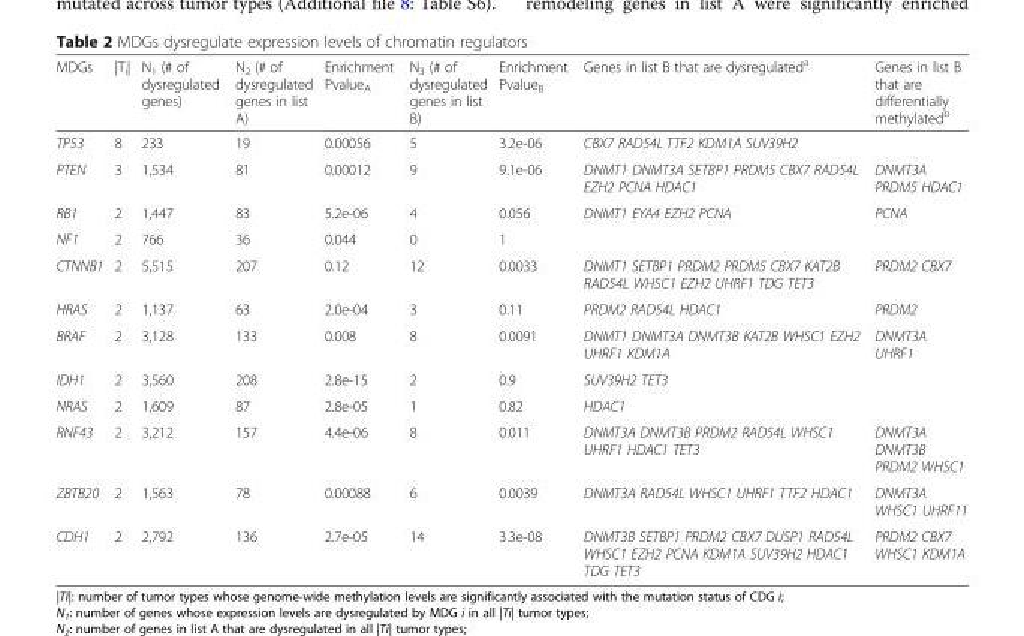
<table><thead><tr><td>MDGs</td><td>|T<sub>i</sub>|</td><td>N<sub>1</sub> (# of dysregulated genes)</td><td>N<sub>2</sub> (# of dysregulated genes in list A)</td><td>Enrichment Pvalue<sub>A</sub></td><td>N<sub>3</sub> (# of dysregulated genes in list B)</td><td>Enrichment Pvalue<sub>B</sub></td><td>Genes in list B that are dysregulated<sup>a</sup></td><td>Genes in list B that are differentially methylated<sup>b</sup></td></tr></thead><tbody><tr><td>TP53</td><td>8</td><td>233</td><td>19</td><td>0.00056</td><td>5</td><td>3.2e-06</td><td>CBX7 RAD54L TTF2 KDM1A SUV39H2</td><td></td></tr><tr><td>PTEN</td><td>3</td><td>1,534</td><td>81</td><td>0.00012</td><td>9</td><td>9.1e-06</td><td>DNMT1 DNMT3A SETBP1 PRDM5 CBX7 RAD54L EZH2 PCNA HDAC1</td><td>DNMT3A PRDM5 HDAC1</td></tr><tr><td>RB1</td><td>2</td><td>1,447</td><td>83</td><td>5.2e-06</td><td>4</td><td>0.056</td><td>DNMT1 EYA4 EZH2 PCNA</td><td>PCNA</td></tr><tr><td>NF1</td><td>2</td><td>766</td><td>36</td><td>0.044</td><td>0</td><td>1</td><td></td><td></td></tr><tr><td>CTNNB1</td><td>2</td><td>5,515</td><td>207</td><td>0.12</td><td>12</td><td>0.0033</td><td>DNMT1 SETBP1 PRDM2 PRDM5 CBX7 KAT2B RAD54L WHSC1 EZH2 UHRF1 TDG TET3</td><td>PRDM2 CBX7</td></tr><tr><td>HRAS</td><td>2</td><td>1,137</td><td>63</td><td>2.0e-04</td><td>3</td><td>0.11</td><td>PRDM2 RAD54L HDAC1</td><td>PRDM2</td></tr><tr><td>BRAF</td><td>2</td><td>3,128</td><td>133</td><td>0.008</td><td>8</td><td>0.0091</td><td>DNMT1 DNMT3A DNMT3B KAT2B WHSC1 EZH2 UHRF1 KDM1A</td><td>DNMT3A UHRF1</td></tr><tr><td>IDH1</td><td>2</td><td>3,560</td><td>208</td><td>2.8e-15</td><td>2</td><td>0.9</td><td>SUV39H2 TET3</td><td></td></tr><tr><td>NRAS</td><td>2</td><td>1,609</td><td>87</td><td>2.8e-05</td><td>1</td><td>0.82</td><td>HDAC1</td><td></td></tr><tr><td>RNF43</td><td>2</td><td>3,212</td><td>157</td><td>4.4e-06</td><td>8</td><td>0.011</td><td>DNMT3A DNMT3B PRDM2 RAD54L WHSC1 UHRF1 HDAC1 TET3</td><td>DNMT3A DNMT3B PRDM2 WHSC1</td></tr><tr><td>ZBTB20</td><td>2</td><td>1,563</td><td>78</td><td>0.00088</td><td>6</td><td>0.0039</td><td>DNMT3A RAD54L WHSC1 UHRF1 TTF2 HDAC1</td><td>DNMT3A WHSC1 UHRF11</td></tr><tr><td>CDH1</td><td>2</td><td>2,792</td><td>136</td><td>2.7e-05</td><td>14</td><td>3.3e-08</td><td>DNMT3B SETBP1 PRDM2 CBX7 DUSP1 RAD54L WHSC1 EZH2 PCNA KDM1A SUV39H2 HDAC1 TDG TET3</td><td>PRDM2 CBX7 WHSC1 KDM1A</td></tr></tbody></table>